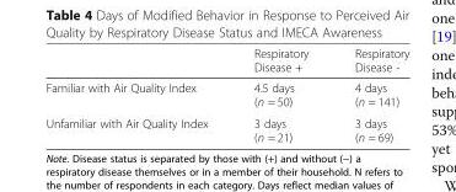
<table><thead><tr><td></td><td>Respiratory Disease +</td><td>Respiratory Disease -</td></tr></thead><tbody><tr><td>Familiar with Air Quality Index</td><td>4.5 days (n = 50)</td><td>4 days (n = 141)</td></tr><tr><td>Unfamiliar with Air Quality Index</td><td>3 days (n = 21)</td><td>3 days (n = 69)</td></tr></tbody></table>